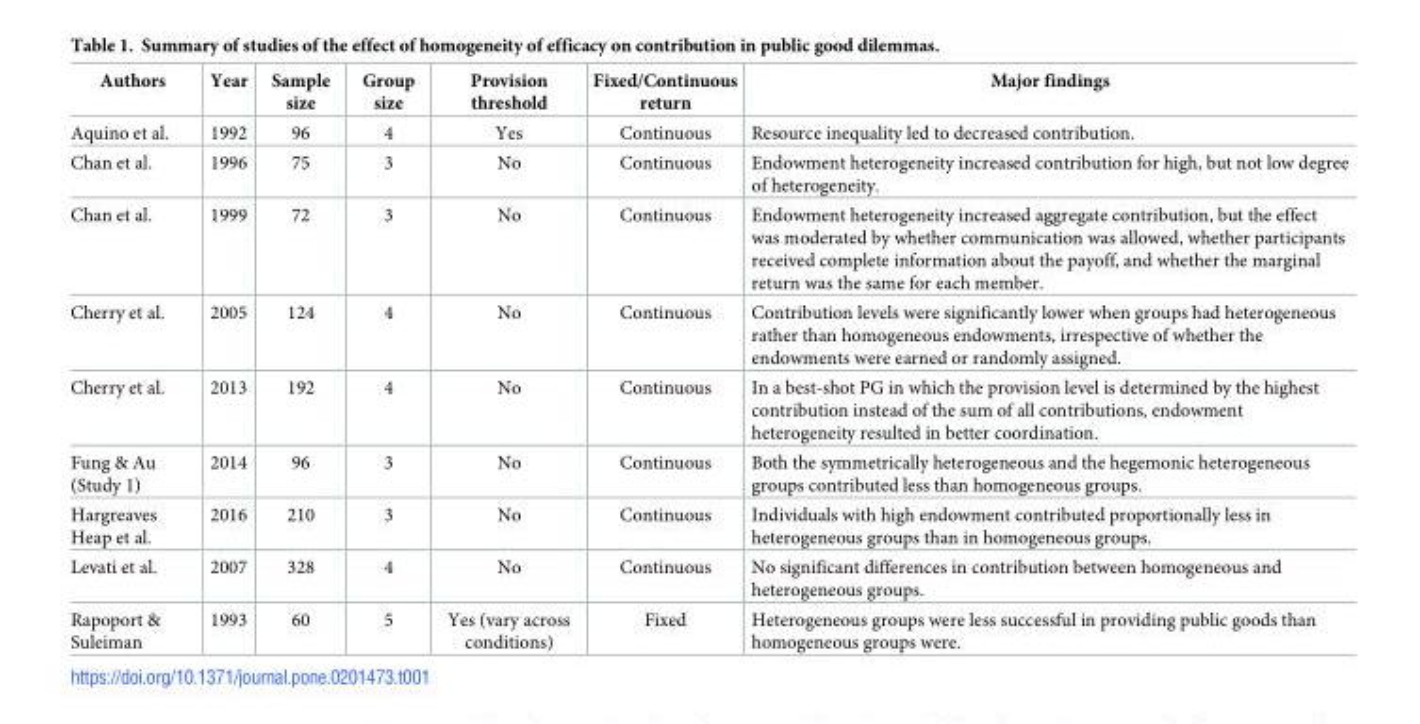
<table><thead><tr><td>Authors</td><td>Year</td><td>Sample size</td><td>Group size</td><td>Provision threshold</td><td>Fixed/Continuous return</td><td>Major findings</td></tr></thead><tbody><tr><td>Aquino et al.</td><td>1992</td><td>96</td><td>4</td><td>Yes</td><td>Continuous</td><td>Resource inequality led to decreased contribution.</td></tr><tr><td>Chan et al.</td><td>1996</td><td>75</td><td>3</td><td>No</td><td>Continuous</td><td>Endowment heterogeneity increased contribution for high, but not low degree of heterogeneity.</td></tr><tr><td>Chan et al.</td><td>1999</td><td>72</td><td>3</td><td>No</td><td>Continuous</td><td>Endowment heterogeneity increased aggregate contribution, but the effect was moderated by whether communication was allowed, whether participants received complete information about the payoff, and whether the marginal return was the same for each member.</td></tr><tr><td>Cherry et al.</td><td>2005</td><td>124</td><td>4</td><td>No</td><td>Continuous</td><td>Contribution levels were significantly lower when groups had heterogeneous rather than homogeneous endowments, irrespective of whether the endowments were earned or randomly assigned.</td></tr><tr><td>Cherry et al.</td><td>2013</td><td>192</td><td>4</td><td>No</td><td>Continuous</td><td>In a best-shot PG in which the provision level is determined by the highest contribution instead of the sum of all contributions, endowment heterogeneity resulted in better coordination.</td></tr><tr><td>Fung &amp; Au (Study 1)</td><td>2014</td><td>96</td><td>3</td><td>No</td><td>Continuous</td><td>Both the symmetrically heterogeneous and the hegemonic heterogeneous groups contributed less than homogeneous groups.</td></tr><tr><td>Hargreaves Heap et al.</td><td>2016</td><td>210</td><td>3</td><td>No</td><td>Continuous</td><td>Individuals with high endowment contributed proportionally less in heterogeneous groups than in homogeneous groups.</td></tr><tr><td>Levati et al.</td><td>2007</td><td>328</td><td>4</td><td>No</td><td>Continuous</td><td>No significant differences in contribution between homogeneous and heterogeneous groups.</td></tr><tr><td>Rapoport &amp; Suleiman</td><td>1993</td><td>60</td><td>5</td><td>Yes (vary across conditions)</td><td>Fixed</td><td>Heterogeneous groups were less successful in providing public goods than homogeneous groups were.</td></tr></tbody></table>